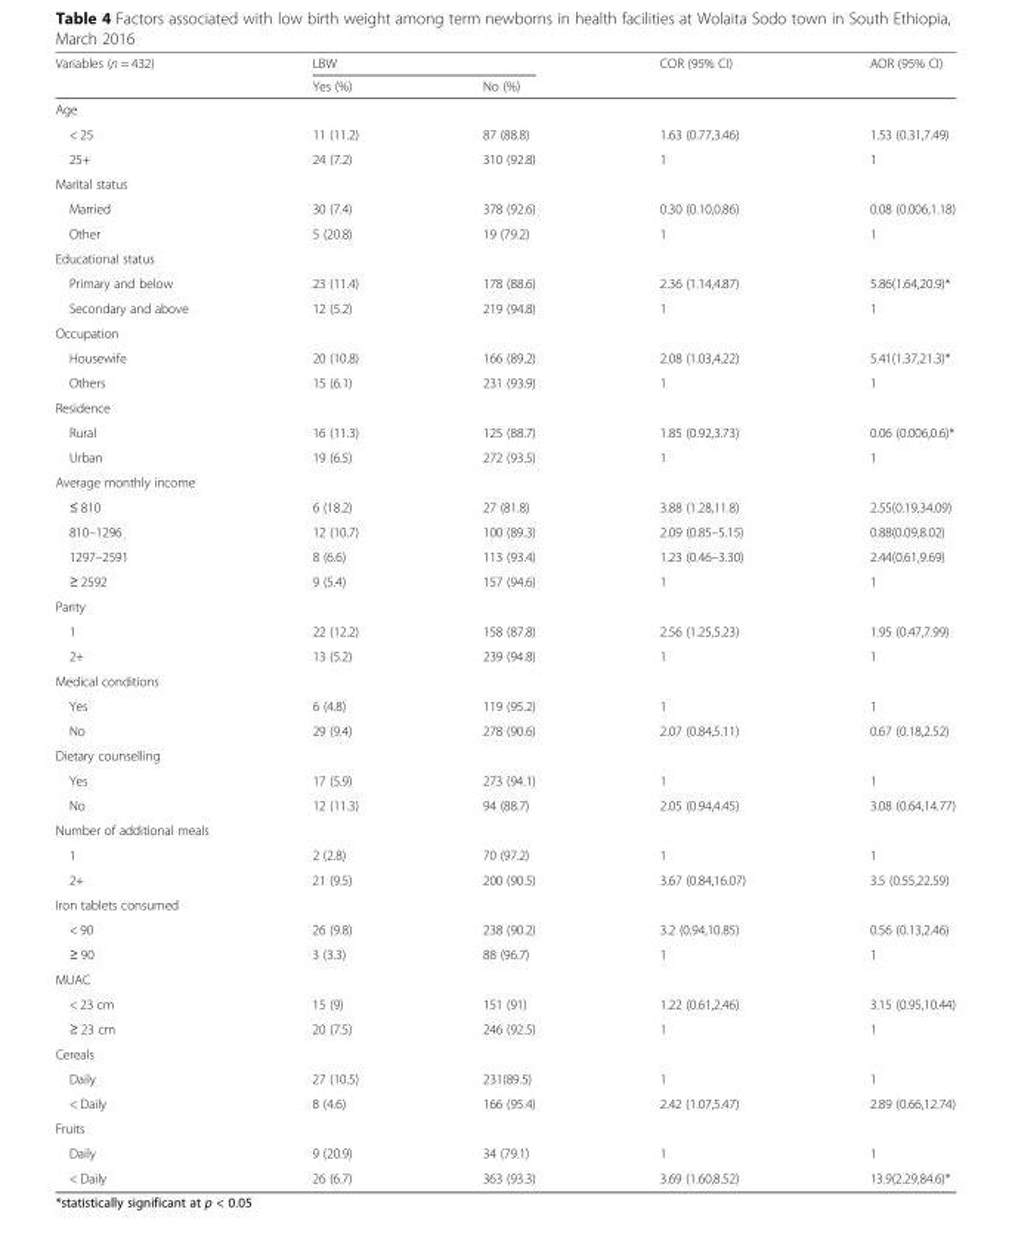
<table><thead><tr><td rowspan="2">Variables (n = 432)</td><td colspan="2">LBW</td><td rowspan="2">COR (95% CI)</td><td rowspan="2">AOR (95% CI)</td></tr><tr><td>Yes (%)</td><td>No (%)</td></tr></thead><tbody><tr><td colspan="5">Age</td></tr><tr><td>&lt; 25</td><td>11 (11.2)</td><td>87 (88.8)</td><td>1.63 (0.77,3.46)</td><td>1.53 (0.31,7.49)</td></tr><tr><td>25+</td><td>24 (7.2)</td><td>310 (92.8)</td><td>1</td><td>1</td></tr><tr><td colspan="5">Marital status</td></tr><tr><td>Married</td><td>30 (7.4)</td><td>378 (92.6)</td><td>0.30 (0.10,0.86)</td><td>0.08 (0.006,1.18)</td></tr><tr><td>Other</td><td>5 (20.8)</td><td>19 (79.2)</td><td>1</td><td>1</td></tr><tr><td colspan="5">Educational status</td></tr><tr><td>Primary and below</td><td>23 (11.4)</td><td>178 (88.6)</td><td>2.36 (1.14,4.87)</td><td>5.86(1.64,20.9)*</td></tr><tr><td>Secondary and above</td><td>12 (5.2)</td><td>219 (94.8)</td><td>1</td><td>1</td></tr><tr><td colspan="5">Occupation</td></tr><tr><td>Housewife</td><td>20 (10.8)</td><td>166 (89.2)</td><td>2.08 (1.03,4.22)</td><td>5.41(1.37,21.3)*</td></tr><tr><td>Others</td><td>15 (6.1)</td><td>231 (93.9)</td><td>1</td><td>1</td></tr><tr><td colspan="5">Residence</td></tr><tr><td>Rural</td><td>16 (11.3)</td><td>125 (88.7)</td><td>1.85 (0.92,3.73)</td><td>0.06 (0.006,0.6)*</td></tr><tr><td>Urban</td><td>19 (6.5)</td><td>272 (93.5)</td><td>1</td><td>1</td></tr><tr><td colspan="5">Average monthly income</td></tr><tr><td>≤ 810</td><td>6 (18.2)</td><td>27 (81.8)</td><td>3.88 (1.28,11.8)</td><td>2.55(0.19,34.09)</td></tr><tr><td>810–1296</td><td>12 (10.7)</td><td>100 (89.3)</td><td>2.09 (0.85–5.15)</td><td>0.88(0.09,8.02)</td></tr><tr><td>1297–2591</td><td>8 (6.6)</td><td>113 (93.4)</td><td>1.23 (0.46–3.30)</td><td>2.44(0.61,9.69)</td></tr><tr><td>≥ 2592</td><td>9 (5.4)</td><td>157 (94.6)</td><td>1</td><td>1</td></tr><tr><td colspan="5">Parity</td></tr><tr><td>1</td><td>22 (12.2)</td><td>158 (87.8)</td><td>2.56 (1.25,5.23)</td><td>1.95 (0.47,7.99)</td></tr><tr><td>2+</td><td>13 (5.2)</td><td>239 (94.8)</td><td>1</td><td>1</td></tr><tr><td colspan="5">Medical conditions</td></tr><tr><td>Yes</td><td>6 (4.8)</td><td>119 (95.2)</td><td>1</td><td>1</td></tr><tr><td>No</td><td>29 (9.4)</td><td>278 (90.6)</td><td>2.07 (0.84,5.11)</td><td>0.67 (0.18,2.52)</td></tr><tr><td colspan="5">Dietary counselling</td></tr><tr><td>Yes</td><td>17 (5.9)</td><td>273 (94.1)</td><td>1</td><td>1</td></tr><tr><td>No</td><td>12 (11.3)</td><td>94 (88.7)</td><td>2.05 (0.94,4.45)</td><td>3.08 (0.64,14.77)</td></tr><tr><td colspan="5">Number of additional meals</td></tr><tr><td>1</td><td>2 (2.8)</td><td>70 (97.2)</td><td>1</td><td>1</td></tr><tr><td>2+</td><td>21 (9.5)</td><td>200 (90.5)</td><td>3.67 (0.84,16.07)</td><td>3.5 (0.55,22.59)</td></tr><tr><td colspan="5">Iron tablets consumed</td></tr><tr><td>&lt; 90</td><td>26 (9.8)</td><td>238 (90.2)</td><td>3.2 (0.94,10.85)</td><td>0.56 (0.13,2.46)</td></tr><tr><td>≥ 90</td><td>3 (3.3)</td><td>88 (96.7)</td><td>1</td><td>1</td></tr><tr><td colspan="5">MUAC</td></tr><tr><td>&lt; 23 cm</td><td>15 (9)</td><td>151 (91)</td><td>1.22 (0.61,2.46)</td><td>3.15 (0.95,10.44)</td></tr><tr><td>≥ 23 cm</td><td>20 (7.5)</td><td>246 (92.5)</td><td>1</td><td>1</td></tr><tr><td colspan="5">Cereals</td></tr><tr><td>Daily</td><td>27 (10.5)</td><td>231(89.5)</td><td>1</td><td>1</td></tr><tr><td>&lt; Daily</td><td>8 (4.6)</td><td>166 (95.4)</td><td>2.42 (1.07,5.47)</td><td>2.89 (0.66,12.74)</td></tr><tr><td colspan="5">Fruits</td></tr><tr><td>Daily</td><td>9 (20.9)</td><td>34 (79.1)</td><td>1</td><td>1</td></tr><tr><td>&lt; Daily</td><td>26 (6.7)</td><td>363 (93.3)</td><td>3.69 (1.60,8.52)</td><td>13.9(2.29,84.6)*</td></tr></tbody></table>